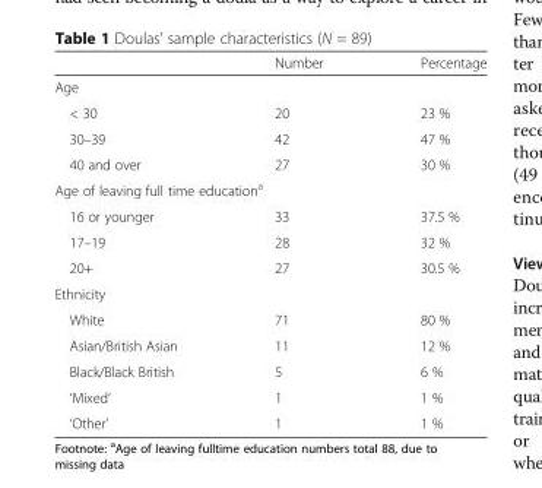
<table><thead><tr><td></td><td>Number</td><td>Percentage</td></tr></thead><tbody><tr><td colspan="3">Age</td></tr><tr><td>&lt; 30</td><td>20</td><td>23 %</td></tr><tr><td>30–39</td><td>42</td><td>47 %</td></tr><tr><td>40 and over</td><td>27</td><td>30 %</td></tr><tr><td colspan="3">Age of leaving full time education<sup>a</sup></td></tr><tr><td>16 or younger</td><td>33</td><td>37.5 %</td></tr><tr><td>17–19</td><td>28</td><td>32 %</td></tr><tr><td>20+</td><td>27</td><td>30.5 %</td></tr><tr><td colspan="3">Ethnicity</td></tr><tr><td>White</td><td>71</td><td>80 %</td></tr><tr><td>Asian/British Asian</td><td>11</td><td>12 %</td></tr><tr><td>Black/Black British</td><td>5</td><td>6 %</td></tr><tr><td>‘Mixed’</td><td>1</td><td>1 %</td></tr><tr><td>‘Other’</td><td>1</td><td>1 %</td></tr></tbody></table>